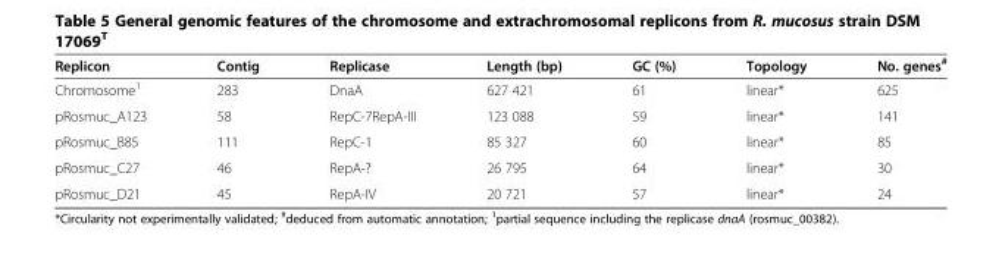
<table><thead><tr><td>Replicon</td><td>Contig</td><td>Replicase</td><td>Length (bp)</td><td>GC (%)</td><td>Topology</td><td>No. genes<sup>#</sup></td></tr></thead><tbody><tr><td>Chromosome<sup>1</sup></td><td>283</td><td>DnaA</td><td>627 421</td><td>61</td><td>linear*</td><td>625</td></tr><tr><td>pRosmuc_A123</td><td>58</td><td>RepC-7RepA-III</td><td>123 088</td><td>59</td><td>linear*</td><td>141</td></tr><tr><td>pRosmuc_B85</td><td>111</td><td>RepC-1</td><td>85 327</td><td>60</td><td>linear*</td><td>85</td></tr><tr><td>pRosmuc_C27</td><td>46</td><td>RepA-?</td><td>26 795</td><td>64</td><td>linear*</td><td>30</td></tr><tr><td>pRosmuc_D21</td><td>45</td><td>RepA-IV</td><td>20 721</td><td>57</td><td>linear*</td><td>24</td></tr></tbody></table>